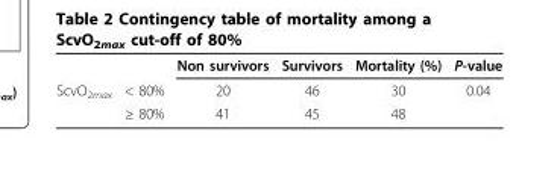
<table><thead><tr><td></td><td></td><td>Non survivors</td><td>Survivors</td><td>Mortality (%)</td><td>P-value</td></tr></thead><tbody><tr><td rowspan="2">ScvO<sub>2max</sub></td><td>&lt; 80%</td><td>20</td><td>46</td><td>30</td><td>0.04</td></tr><tr><td>≥ 80%</td><td>41</td><td>45</td><td>48</td><td></td></tr></tbody></table>